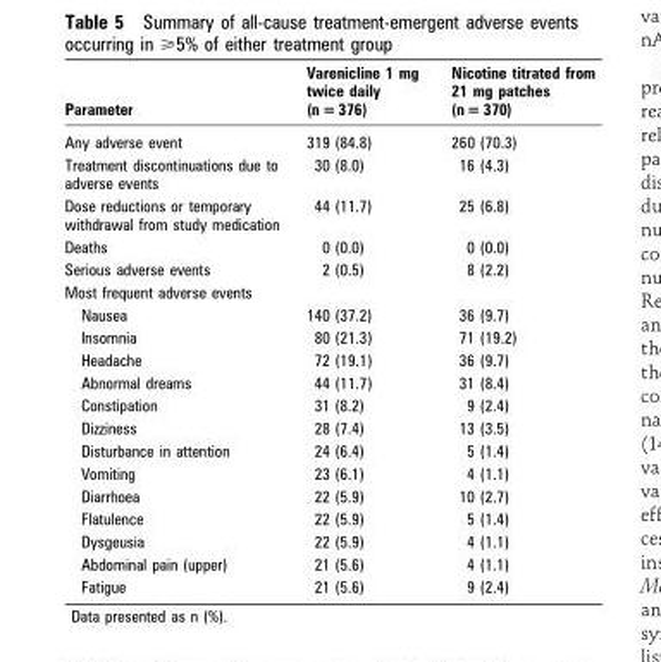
<table><thead><tr><td>Parameter</td><td>Varenicline 1 mg twice daily (n = 376)</td><td>Nicotine titrated from 21 mg patches (n = 370)</td></tr></thead><tbody><tr><td>Any adverse event</td><td>319 (84.8)</td><td>260 (70.3)</td></tr><tr><td>Treatment discontinuations due to adverse events</td><td>30 (8.0)</td><td>16 (4.3)</td></tr><tr><td>Dose reductions or temporary withdrawal from study medication</td><td>44 (11.7)</td><td>25 (6.8)</td></tr><tr><td>Deaths</td><td>0 (0.0)</td><td>0 (0.0)</td></tr><tr><td>Serious adverse events</td><td>2 (0.5)</td><td>8 (2.2)</td></tr><tr><td colspan="3">Most frequent adverse events</td></tr><tr><td>Nausea</td><td>140 (37.2)</td><td>36 (9.7)</td></tr><tr><td>Insomnia</td><td>80 (21.3)</td><td>71 (19.2)</td></tr><tr><td>Headache</td><td>72 (19.1)</td><td>36 (9.7)</td></tr><tr><td>Abnormal dreams</td><td>44 (11.7)</td><td>31 (8.4)</td></tr><tr><td>Constipation</td><td>31 (8.2)</td><td>9 (2.4)</td></tr><tr><td>Dizziness</td><td>28 (7.4)</td><td>13 (3.5)</td></tr><tr><td>Disturbance in attention</td><td>24 (6.4)</td><td>5 (1.4)</td></tr><tr><td>Vomiting</td><td>23 (6.1)</td><td>4 (1.1)</td></tr><tr><td>Diarrhoea</td><td>22 (5.9)</td><td>10 (2.7)</td></tr><tr><td>Flatulence</td><td>22 (5.9)</td><td>5 (1.4)</td></tr><tr><td>Dysgeusia</td><td>22 (5.9)</td><td>4 (1.1)</td></tr><tr><td>Abdominal pain (upper)</td><td>21 (5.6)</td><td>4 (1.1)</td></tr><tr><td>Fatigue</td><td>21 (5.6)</td><td>9 (2.4)</td></tr></tbody></table>